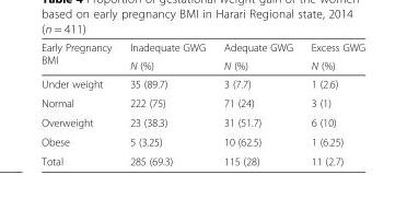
<table><thead><tr><td rowspan="2">Early Pregnancy BMI</td><td rowspan="2">Inadequate GWG N (%)</td><td rowspan="2">Adequate GWG N (%)</td><td rowspan="2">Excess GWG N (%)</td></tr><tr></tr></thead><tbody><tr><td>Under weight</td><td>35 (89.7)</td><td>3 (7.7)</td><td>1 (2.6)</td></tr><tr><td>Normal</td><td>222 (75)</td><td>71 (24)</td><td>3 (1)</td></tr><tr><td>Overweight</td><td>23 (38.3)</td><td>31 (51.7)</td><td>6 (10)</td></tr><tr><td>Obese</td><td>5 (3.25)</td><td>10 (62.5)</td><td>1 (6.25)</td></tr><tr><td>Total</td><td>285 (69.3)</td><td>115 (28)</td><td>11 (2.7)</td></tr></tbody></table>